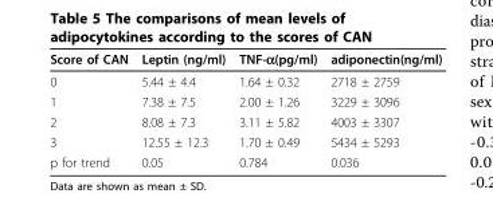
<table><thead><tr><td>Score of CAN</td><td>Leptin (ng/ml)</td><td>TNF-α(pg/ml)</td><td>adiponectin(ng/ml)</td></tr></thead><tbody><tr><td>0</td><td>5.44 ± 4.4</td><td>1.64 ± 0.32</td><td>2718 ± 2759</td></tr><tr><td>1</td><td>7.38 ± 7.5</td><td>2.00 ± 1.26</td><td>3229 ± 3096</td></tr><tr><td>2</td><td>8.08 ± 7.3</td><td>3.11 ± 5.82</td><td>4003 ± 3307</td></tr><tr><td>3</td><td>12.55 ± 12.3</td><td>1.70 ± 0.49</td><td>5434 ± 5293</td></tr><tr><td>p for trend</td><td>0.05</td><td>0.784</td><td>0.036</td></tr></tbody></table>